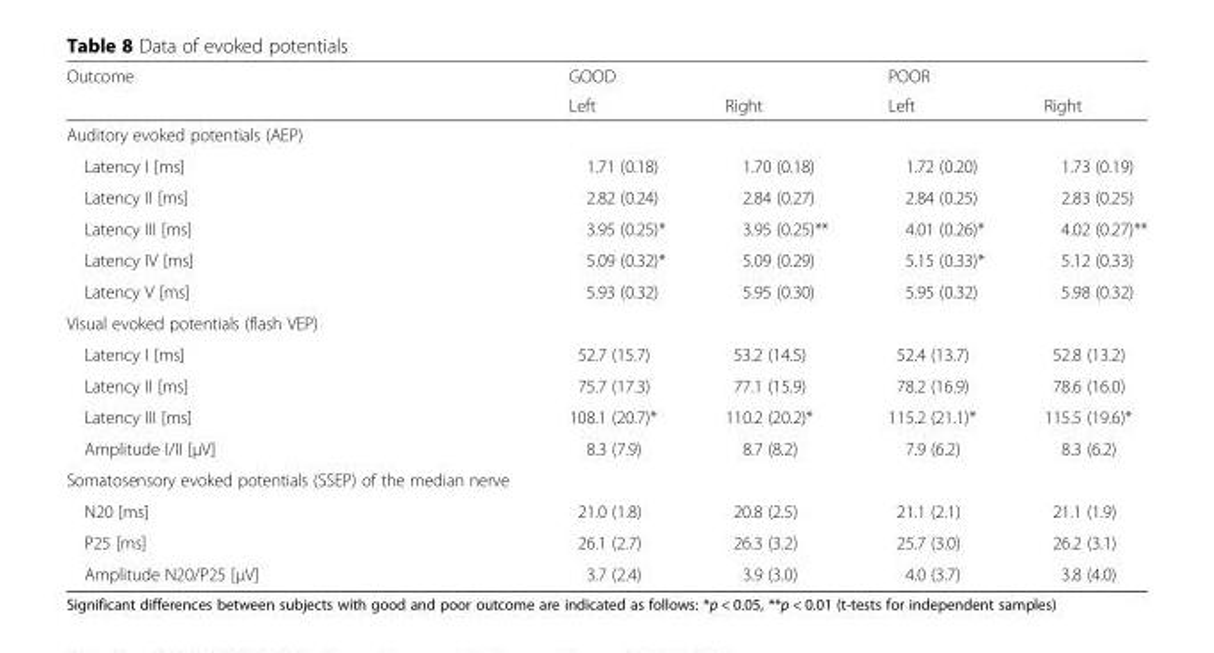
<table><thead><tr><td rowspan="2">Outcome</td><td rowspan="2">GOOD Left</td><td rowspan="2">Right</td><td rowspan="2">POOR Left</td><td rowspan="2">Right</td></tr><tr></tr></thead><tbody><tr><td colspan="5">Auditory evoked potentials (AEP)</td></tr><tr><td>Latency I [ms]</td><td>1.71 (0.18)</td><td>1.70 (0.18)</td><td>1.72 (0.20)</td><td>1.73 (0.19)</td></tr><tr><td>Latency II [ms]</td><td>2.82 (0.24)</td><td>2.84 (0.27)</td><td>2.84 (0.25)</td><td>2.83 (0.25)</td></tr><tr><td>Latency III [ms]</td><td>3.95 (0.25)*</td><td>3.95 (0.25)**</td><td>4.01 (0.26)*</td><td>4.02 (0.27)**</td></tr><tr><td>Latency IV [ms]</td><td>5.09 (0.32)*</td><td>5.09 (0.29)</td><td>5.15 (0.33)*</td><td>5.12 (0.33)</td></tr><tr><td>Latency V [ms]</td><td>5.93 (0.32)</td><td>5.95 (0.30)</td><td>5.95 (0.32)</td><td>5.98 (0.32)</td></tr><tr><td colspan="5">Visual evoked potentials (flash VEP)</td></tr><tr><td>Latency I [ms]</td><td>52.7 (15.7)</td><td>53.2 (14.5)</td><td>52.4 (13.7)</td><td>52.8 (13.2)</td></tr><tr><td>Latency II [ms]</td><td>75.7 (17.3)</td><td>77.1 (15.9)</td><td>78.2 (16.9)</td><td>78.6 (16.0)</td></tr><tr><td>Latency III [ms]</td><td>108.1 (20.7)*</td><td>110.2 (20.2)*</td><td>115.2 (21.1)*</td><td>115.5 (19.6)*</td></tr><tr><td>Amplitude I/II [μV]</td><td>8.3 (7.9)</td><td>8.7 (8.2)</td><td>7.9 (6.2)</td><td>8.3 (6.2)</td></tr><tr><td colspan="5">Somatosensory evoked potentials (SSEP) of the median nerve</td></tr><tr><td>N20 [ms]</td><td>21.0 (1.8)</td><td>20.8 (2.5)</td><td>21.1 (2.1)</td><td>21.1 (1.9)</td></tr><tr><td>P25 [ms]</td><td>26.1 (2.7)</td><td>26.3 (3.2)</td><td>25.7 (3.0)</td><td>26.2 (3.1)</td></tr><tr><td>Amplitude N20/P25 [μV]</td><td>3.7 (2.4)</td><td>3.9 (3.0)</td><td>4.0 (3.7)</td><td>3.8 (4.0)</td></tr></tbody></table>